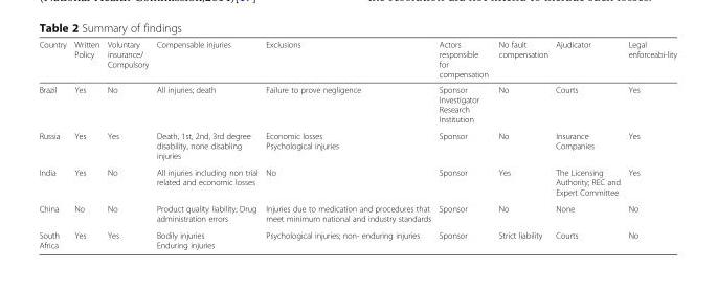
<table><thead><tr><td>Country</td><td>Written Policy</td><td>Voluntary insurance/ Compulsory</td><td>Compensable injuries</td><td>Exclusions</td><td>Actors responsible for compensation</td><td>No fault compensation</td><td>Ajudicator</td><td>Legal enforceabi-lity</td></tr></thead><tbody><tr><td>Brazil</td><td>Yes</td><td>No</td><td>All injuries; death</td><td>Failure to prove negligence</td><td>Sponsor Investigator Research Institution</td><td>No</td><td>Courts</td><td>Yes</td></tr><tr><td>Russia</td><td>Yes</td><td>Yes</td><td>Death, 1st, 2nd, 3rd degree disability, none disabling injuries</td><td>Economic losses Psychological injuries</td><td>Sponsor</td><td>No</td><td>Insurance Companies</td><td>Yes</td></tr><tr><td>India</td><td>Yes</td><td>No</td><td>All injuries including non trial related and economic losses</td><td>No</td><td>Sponsor</td><td>Yes</td><td>The Licensing Authority; REC and Expert Committee</td><td>Yes</td></tr><tr><td>China</td><td>No</td><td>No</td><td>Product quality liability; Drug administration errors</td><td>Injuries due to medication and procedures that meet minimum national and industry standards</td><td>Sponsor</td><td>No</td><td>None</td><td>No</td></tr><tr><td>South Africa</td><td>Yes</td><td>Yes</td><td>Bodily injuries Enduring injuries</td><td>Psychological injuries; non- enduring injuries</td><td>Sponsor</td><td>Strict liability</td><td>Courts</td><td>No</td></tr></tbody></table>